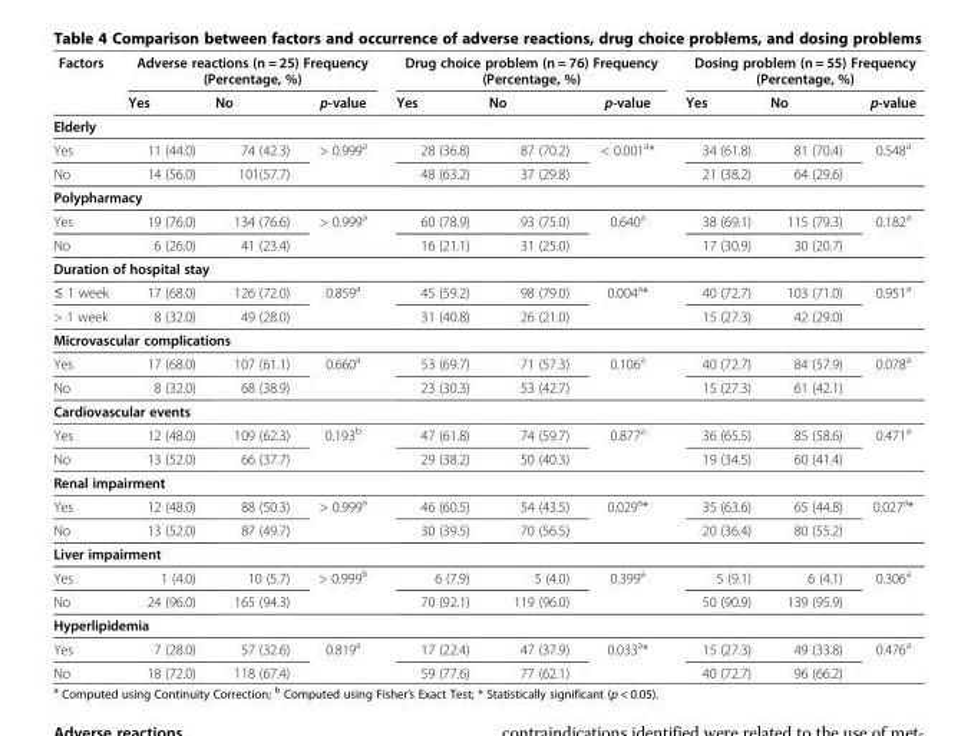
<table><thead><tr><td rowspan="2">Factors</td><td colspan="3">Adverse reactions (n = 25) Frequency (Percentage, %)</td><td colspan="3">Drug choice problem (n = 76) Frequency (Percentage, %)</td><td colspan="3">Dosing problem (n = 55) Frequency (Percentage, %)</td></tr><tr><td>Yes</td><td>No</td><td>p-value</td><td>Yes</td><td>No</td><td>p-value</td><td>Yes</td><td>No</td><td>p-value</td></tr></thead><tbody><tr><td colspan="10">Elderly</td></tr><tr><td>Yes</td><td>11 (44.0)</td><td>74 (42.3)</td><td rowspan="2">&gt; 0.999<sup>a</sup></td><td>28 (36.8)</td><td>87 (70.2)</td><td rowspan="2">&lt; 0.001<sup>a</sup>*</td><td>34 (61.8)</td><td>81 (70.4)</td><td rowspan="2">0.548<sup>a</sup></td></tr><tr><td>No</td><td>14 (56.0)</td><td>101(57.7)</td><td>48 (63.2)</td><td>37 (29.8)</td><td>21 (38.2)</td><td>64 (29.6)</td></tr><tr><td colspan="10">Polypharmacy</td></tr><tr><td>Yes</td><td>19 (76.0)</td><td>134 (76.6)</td><td rowspan="2">&gt; 0.999<sup>a</sup></td><td>60 (78.9)</td><td>93 (75.0)</td><td rowspan="2">0.640<sup>a</sup></td><td>38 (69.1)</td><td>115 (79.3)</td><td rowspan="2">0.182<sup>a</sup></td></tr><tr><td>No</td><td>6 (26.0)</td><td>41 (23.4)</td><td>16 (21.1)</td><td>31 (25.0)</td><td>17 (30.9)</td><td>30 (20.7)</td></tr><tr><td colspan="10">Duration of hospital stay</td></tr><tr><td>≤ 1 week</td><td>17 (68.0)</td><td>126 (72.0)</td><td rowspan="2">0.859<sup>a</sup></td><td>45 (59.2)</td><td>98 (79.0)</td><td rowspan="2">0.004<sup>a</sup>*</td><td>40 (72.7)</td><td>103 (71.0)</td><td rowspan="2">0.951<sup>a</sup></td></tr><tr><td>&gt; 1 week</td><td>8 (32.0)</td><td>49 (28.0)</td><td>31 (40.8)</td><td>26 (21.0)</td><td>15 (27.3)</td><td>42 (29.0)</td></tr><tr><td colspan="10">Microvascular complications</td></tr><tr><td>Yes</td><td>17 (68.0)</td><td>107 (61.1)</td><td rowspan="2">0.660<sup>a</sup></td><td>53 (69.7)</td><td>71 (57.3)</td><td rowspan="2">0.106<sup>a</sup></td><td>40 (72.7)</td><td>84 (57.9)</td><td rowspan="2">0.078<sup>a</sup></td></tr><tr><td>No</td><td>8 (32.0)</td><td>68 (38.9)</td><td>23 (30.3)</td><td>53 (42.7)</td><td>15 (27.3)</td><td>61 (42.1)</td></tr><tr><td colspan="10">Cardiovascular events</td></tr><tr><td>Yes</td><td>12 (48.0)</td><td>109 (62.3)</td><td rowspan="2">0.193<sup>b</sup></td><td>47 (61.8)</td><td>74 (59.7)</td><td rowspan="2">0.877<sup>a</sup></td><td>36 (65.5)</td><td>85 (58.6)</td><td rowspan="2">0.471<sup>a</sup></td></tr><tr><td>No</td><td>13 (52.0)</td><td>66 (37.7)</td><td>29 (38.2)</td><td>50 (40.3)</td><td>19 (34.5)</td><td>60 (41.4)</td></tr><tr><td colspan="10">Renal impairment</td></tr><tr><td>Yes</td><td>12 (48.0)</td><td>88 (50.3)</td><td rowspan="2">&gt; 0.999<sup>a</sup></td><td>46 (60.5)</td><td>54 (43.5)</td><td rowspan="2">0.029<sup>a</sup>*</td><td>35 (63.6)</td><td>65 (44.8)</td><td rowspan="2">0.027<sup>a</sup>*</td></tr><tr><td>No</td><td>13 (52.0)</td><td>87 (49.7)</td><td>30 (39.5)</td><td>70 (56.5)</td><td>20 (36.4)</td><td>80 (55.2)</td></tr><tr><td colspan="10">Liver impairment</td></tr><tr><td>Yes</td><td>1 (4.0)</td><td>10 (5.7)</td><td rowspan="2">&gt; 0.999<sup>b</sup></td><td>6 (7.9)</td><td>5 (4.0)</td><td rowspan="2">0.399<sup>a</sup></td><td>5 (9.1)</td><td>6 (4.1)</td><td rowspan="2">0.306<sup>a</sup></td></tr><tr><td>No</td><td>24 (96.0)</td><td>165 (94.3)</td><td>70 (92.1)</td><td>119 (96.0)</td><td>50 (90.9)</td><td>139 (95.9)</td></tr><tr><td colspan="10">Hyperlipidemia</td></tr><tr><td>Yes</td><td>7 (28.0)</td><td>57 (32.6)</td><td rowspan="2">0.819<sup>a</sup></td><td>17 (22.4)</td><td>47 (37.9)</td><td rowspan="2">0.033<sup>a</sup>*</td><td>15 (27.3)</td><td>49 (33.8)</td><td rowspan="2">0.476<sup>a</sup></td></tr><tr><td>No</td><td>18 (72.0)</td><td>118 (67.4)</td><td>59 (77.6)</td><td>77 (62.1)</td><td>40 (72.7)</td><td>96 (66.2)</td></tr></tbody></table>